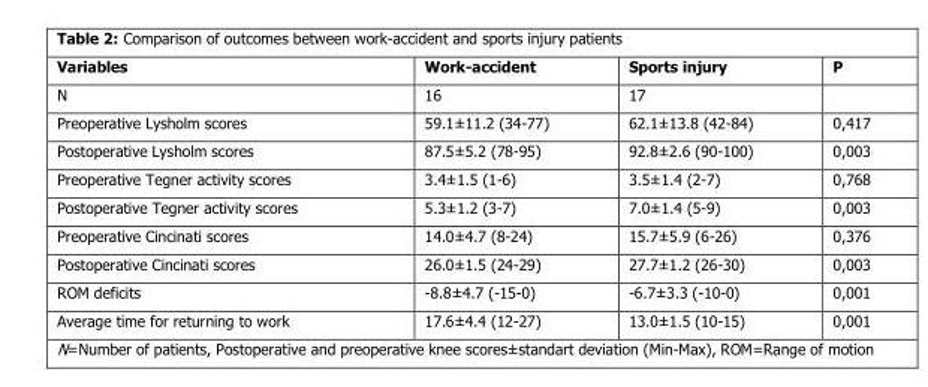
<table><thead><tr><td>Variables</td><td>Work-accident</td><td>Sports injury</td><td>P</td></tr></thead><tbody><tr><td>N</td><td>16</td><td>17</td><td></td></tr><tr><td>Preoperative Lysholm scores</td><td>59.1±11.2 (34-77)</td><td>62.1±13.8 (42-84)</td><td>0,417</td></tr><tr><td>Postoperative Lysholm scores</td><td>87.5±5.2 (78-95)</td><td>92.8±2.6 (90-100)</td><td>0,003</td></tr><tr><td>Preoperative Tegner activity scores</td><td>3.4±1.5 (1-6)</td><td>3.5±1.4 (2-7)</td><td>0,768</td></tr><tr><td>Postoperative Tegner activity scores</td><td>5.3±1.2 (3-7)</td><td>7.0±1.4 (5-9)</td><td>0,003</td></tr><tr><td>Preoperative Cincinati scores</td><td>14.0±4.7 (8-24)</td><td>15.7±5.9 (6-26)</td><td>0,376</td></tr><tr><td>Postoperative Cincinati scores</td><td>26.0±1.5 (24-29)</td><td>27.7±1.2 (26-30)</td><td>0,003</td></tr><tr><td>ROM deficits</td><td>-8.8±4.7 (-15-0)</td><td>-6.7±3.3 (-10-0)</td><td>0,001</td></tr><tr><td>Average time for returning to work</td><td>17.6±4.4 (12-27)</td><td>13.0±1.5 (10-15)</td><td>0,001</td></tr></tbody></table>